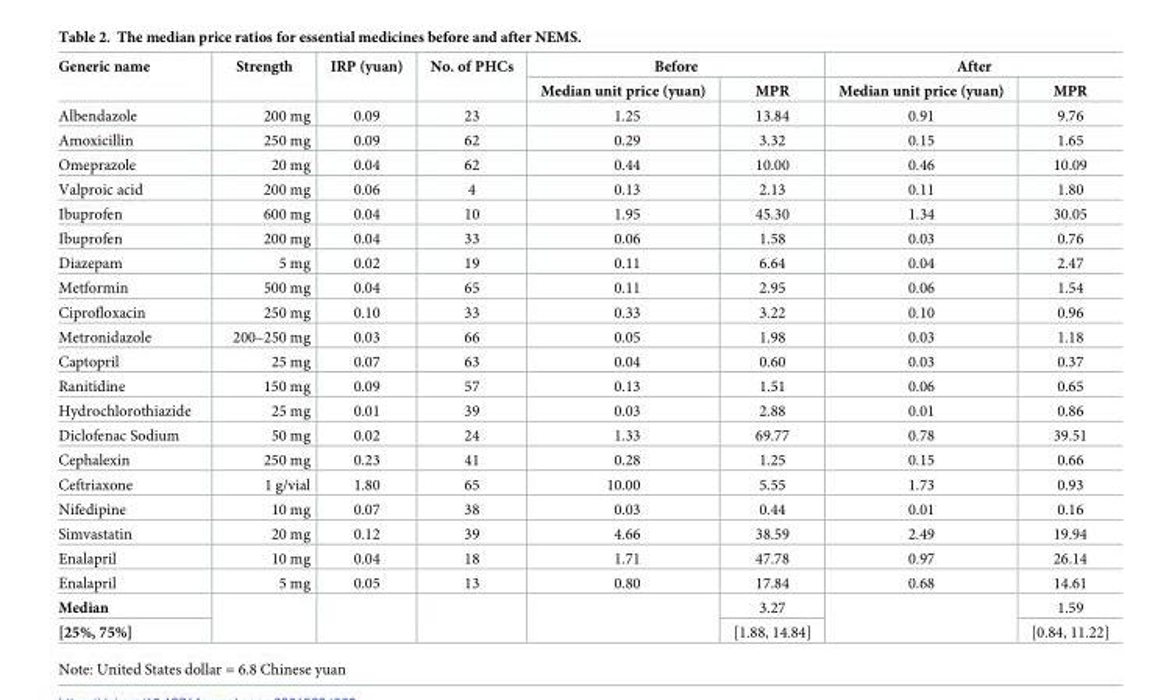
<table><thead><tr><td rowspan="2">Generic name</td><td rowspan="2">Strength</td><td rowspan="2">IRP (yuan)</td><td rowspan="2">No. of PHCs</td><td colspan="2">Before</td><td colspan="2">After</td></tr><tr><td>Median unit price (yuan)</td><td>MPR</td><td>Median unit price (yuan)</td><td>MPR</td></tr></thead><tbody><tr><td>Albendazole</td><td>200 mg</td><td>0.09</td><td>23</td><td>1.25</td><td>13.84</td><td>0.91</td><td>9.76</td></tr><tr><td>Amoxicillin</td><td>250 mg</td><td>0.09</td><td>62</td><td>0.29</td><td>3.32</td><td>0.15</td><td>1.65</td></tr><tr><td>Omeprazole</td><td>20 mg</td><td>0.04</td><td>62</td><td>0.44</td><td>10.00</td><td>0.46</td><td>10.09</td></tr><tr><td>Valproic acid</td><td>200 mg</td><td>0.06</td><td>4</td><td>0.13</td><td>2.13</td><td>0.11</td><td>1.80</td></tr><tr><td>Ibuprofen</td><td>600 mg</td><td>0.04</td><td>10</td><td>1.95</td><td>45.30</td><td>1.34</td><td>30.05</td></tr><tr><td>Ibuprofen</td><td>200 mg</td><td>0.04</td><td>33</td><td>0.06</td><td>1.58</td><td>0.03</td><td>0.76</td></tr><tr><td>Diazepam</td><td>5 mg</td><td>0.02</td><td>19</td><td>0.11</td><td>6.64</td><td>0.04</td><td>2.47</td></tr><tr><td>Metformin</td><td>500 mg</td><td>0.04</td><td>65</td><td>0.11</td><td>2.95</td><td>0.06</td><td>1.54</td></tr><tr><td>Ciprofloxacin</td><td>250 mg</td><td>0.10</td><td>33</td><td>0.33</td><td>3.22</td><td>0.10</td><td>0.96</td></tr><tr><td>Metronidazole</td><td>200–250 mg</td><td>0.03</td><td>66</td><td>0.05</td><td>1.98</td><td>0.03</td><td>1.18</td></tr><tr><td>Captopril</td><td>25 mg</td><td>0.07</td><td>63</td><td>0.04</td><td>0.60</td><td>0.03</td><td>0.37</td></tr><tr><td>Ranitidine</td><td>150 mg</td><td>0.09</td><td>57</td><td>0.13</td><td>1.51</td><td>0.06</td><td>0.65</td></tr><tr><td>Hydrochlorothiazide</td><td>25 mg</td><td>0.01</td><td>39</td><td>0.03</td><td>2.88</td><td>0.01</td><td>0.86</td></tr><tr><td>Diclofenac Sodium</td><td>50 mg</td><td>0.02</td><td>24</td><td>1.33</td><td>69.77</td><td>0.78</td><td>39.51</td></tr><tr><td>Cephalexin</td><td>250 mg</td><td>0.23</td><td>41</td><td>0.28</td><td>1.25</td><td>0.15</td><td>0.66</td></tr><tr><td>Ceftriaxone</td><td>1 g/vial</td><td>1.80</td><td>65</td><td>10.00</td><td>5.55</td><td>1.73</td><td>0.93</td></tr><tr><td>Nifedipine</td><td>10 mg</td><td>0.07</td><td>38</td><td>0.03</td><td>0.44</td><td>0.01</td><td>0.16</td></tr><tr><td>Simvastatin</td><td>20 mg</td><td>0.12</td><td>39</td><td>4.66</td><td>38.59</td><td>2.49</td><td>19.94</td></tr><tr><td>Enalapril</td><td>10 mg</td><td>0.04</td><td>18</td><td>1.71</td><td>47.78</td><td>0.97</td><td>26.14</td></tr><tr><td>Enalapril</td><td>5 mg</td><td>0.05</td><td>13</td><td>0.80</td><td>17.84</td><td>0.68</td><td>14.61</td></tr><tr><td>Median</td><td rowspan="2"></td><td rowspan="2"></td><td rowspan="2"></td><td rowspan="2"></td><td>3.27</td><td rowspan="2"></td><td>1.59</td></tr><tr><td>[25%, 75%]</td><td>[1.88, 14.84]</td><td>[0.84, 11.22]</td></tr></tbody></table>